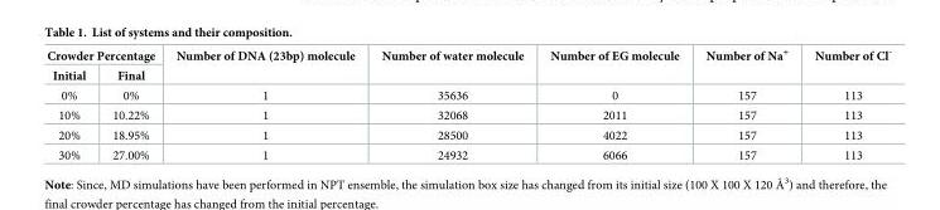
<table><thead><tr><td colspan="2">Crowder Percentage</td><td rowspan="2">Number of DNA (23bp) molecule</td><td rowspan="2">Number of water molecule</td><td rowspan="2">Number of EG molecule</td><td rowspan="2">Number of Na<sup>+</sup></td><td rowspan="2">Number of Cl<sup>-</sup></td></tr><tr><td>Initial</td><td>Final</td></tr></thead><tbody><tr><td>0%</td><td>0%</td><td>1</td><td>35636</td><td>0</td><td>157</td><td>113</td></tr><tr><td>10%</td><td>10.22%</td><td>1</td><td>32068</td><td>2011</td><td>157</td><td>113</td></tr><tr><td>20%</td><td>18.95%</td><td>1</td><td>28500</td><td>4022</td><td>157</td><td>113</td></tr><tr><td>30%</td><td>27.00%</td><td>1</td><td>24932</td><td>6066</td><td>157</td><td>113</td></tr></tbody></table>